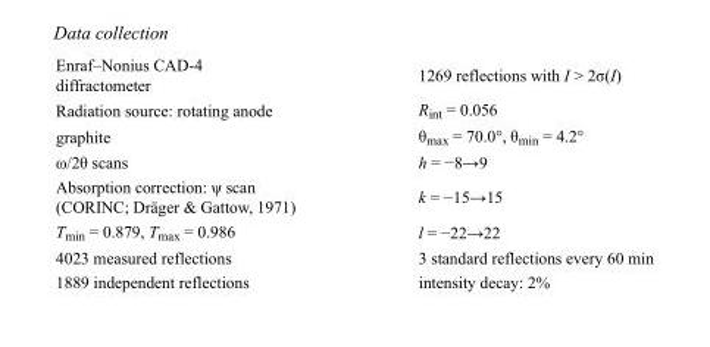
<table><tbody><tr><td>Enraf–Nonius CAD-4 diffractometer</td><td>1269 reflections with I &gt; 2σ(I)</td></tr><tr><td>Radiation source: rotating anode</td><td>R<sub>int</sub> = 0.056</td></tr><tr><td>graphite</td><td>θ<sub>max</sub> = 70.0°, θ<sub>min</sub> = 4.2°</td></tr><tr><td>ω/2θ scans</td><td>h = −8→9</td></tr><tr><td>Absorption correction: ψ scan (CORINC; Dräger &amp; Gattow, 1971)</td><td>k = −15→15</td></tr><tr><td>T<sub>min</sub> = 0.879, T<sub>max</sub> = 0.986</td><td>l = −22→22</td></tr><tr><td>4023 measured reflections</td><td>3 standard reflections every 60 min</td></tr><tr><td>1889 independent reflections</td><td>intensity decay: 2%</td></tr></tbody></table>